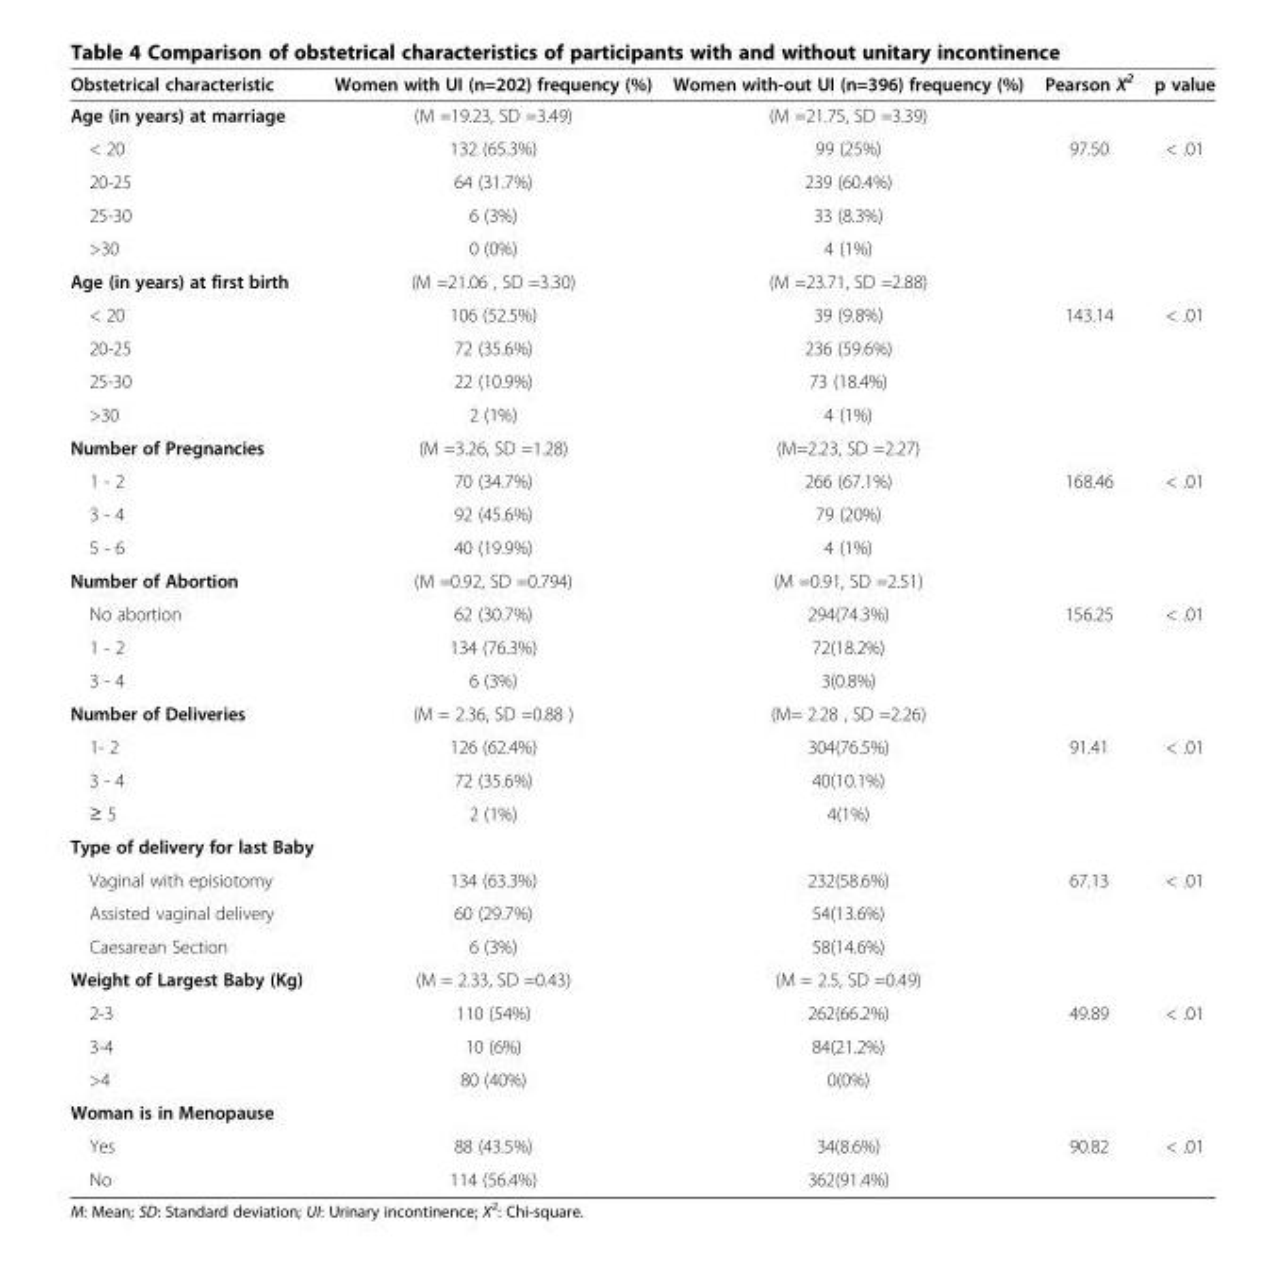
<table><thead><tr><td>Obstetrical characteristic</td><td>Women with UI (n=202) frequency (%)</td><td>Women with-out UI (n=396) frequency (%)</td><td>Pearson X<sup>2</sup></td><td>p value</td></tr></thead><tbody><tr><td>Age (in years) at marriage</td><td>(M =19.23, SD =3.49)</td><td>(M =21.75, SD =3.39)</td><td></td><td></td></tr><tr><td>&lt; 20</td><td>132 (65.3%)</td><td>99 (25%)</td><td rowspan="4">97.50</td><td rowspan="4">&lt; .01</td></tr><tr><td>20-25</td><td>64 (31.7%)</td><td>239 (60.4%)</td></tr><tr><td>25-30</td><td>6 (3%)</td><td>33 (8.3%)</td></tr><tr><td>&gt;30</td><td>0 (0%)</td><td>4 (1%)</td></tr><tr><td>Age (in years) at first birth</td><td>(M =21.06 , SD =3.30)</td><td>(M =23.71, SD =2.88)</td><td></td><td></td></tr><tr><td>&lt; 20</td><td>106 (52.5%)</td><td>39 (9.8%)</td><td rowspan="4">143.14</td><td rowspan="4">&lt; .01</td></tr><tr><td>20-25</td><td>72 (35.6%)</td><td>236 (59.6%)</td></tr><tr><td>25-30</td><td>22 (10.9%)</td><td>73 (18.4%)</td></tr><tr><td>&gt;30</td><td>2 (1%)</td><td>4 (1%)</td></tr><tr><td>Number of Pregnancies</td><td>(M =3.26, SD =1.28)</td><td>(M=2.23, SD =2.27)</td><td></td><td></td></tr><tr><td>1 - 2</td><td>70 (34.7%)</td><td>266 (67.1%)</td><td rowspan="3">168.46</td><td rowspan="3">&lt; .01</td></tr><tr><td>3 - 4</td><td>92 (45.6%)</td><td>79 (20%)</td></tr><tr><td>5 - 6</td><td>40 (19.9%)</td><td>4 (1%)</td></tr><tr><td>Number of Abortion</td><td>(M =0.92, SD =0.794)</td><td>(M =0.91, SD =2.51)</td><td></td><td></td></tr><tr><td>No abortion</td><td>62 (30.7%)</td><td>294(74.3%)</td><td rowspan="3">156.25</td><td rowspan="3">&lt; .01</td></tr><tr><td>1 - 2</td><td>134 (76.3%)</td><td>72(18.2%)</td></tr><tr><td>3 - 4</td><td>6 (3%)</td><td>3(0.8%)</td></tr><tr><td>Number of Deliveries</td><td>(M = 2.36, SD =0.88 )</td><td>(M= 2.28 , SD =2.26)</td><td></td><td></td></tr><tr><td>1- 2</td><td>126 (62.4%)</td><td>304(76.5%)</td><td rowspan="3">91.41</td><td rowspan="3">&lt; .01</td></tr><tr><td>3 - 4</td><td>72 (35.6%)</td><td>40(10.1%)</td></tr><tr><td>≥ 5</td><td>2 (1%)</td><td>4(1%)</td></tr><tr><td colspan="5">Type of delivery for last Baby</td></tr><tr><td>Vaginal with episiotomy</td><td>134 (63.3%)</td><td>232(58.6%)</td><td rowspan="3">67.13</td><td rowspan="3">&lt; .01</td></tr><tr><td>Assisted vaginal delivery</td><td>60 (29.7%)</td><td>54(13.6%)</td></tr><tr><td>Caesarean Section</td><td>6 (3%)</td><td>58(14.6%)</td></tr><tr><td>Weight of Largest Baby (Kg)</td><td>(M = 2.33, SD =0.43)</td><td>(M = 2.5, SD =0.49)</td><td></td><td></td></tr><tr><td>2-3</td><td>110 (54%)</td><td>262(66.2%)</td><td rowspan="3">49.89</td><td rowspan="3">&lt; .01</td></tr><tr><td>3-4</td><td>10 (6%)</td><td>84(21.2%)</td></tr><tr><td>&gt;4</td><td>80 (40%)</td><td>0(0%)</td></tr><tr><td colspan="5">Woman is in Menopause</td></tr><tr><td>Yes</td><td>88 (43.5%)</td><td>34(8.6%)</td><td>90.82</td><td>&lt; .01</td></tr><tr><td>No</td><td>114 (56.4%)</td><td>362(91.4%)</td><td></td><td></td></tr></tbody></table>